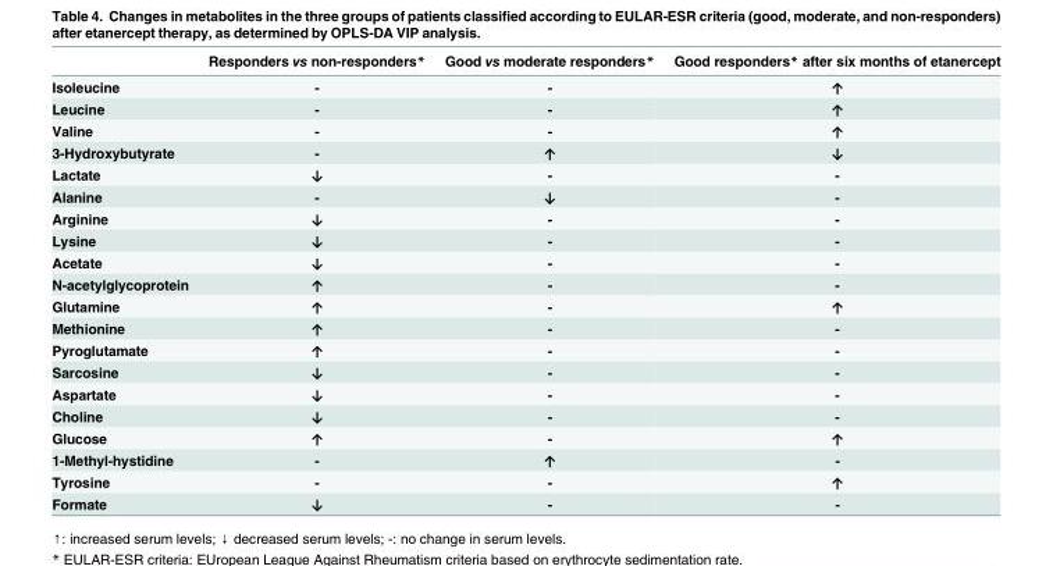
<table><thead><tr><td></td><td>Responders vs non-responders*</td><td>Good vs moderate responders*</td><td>Good responders* after six months of etanercept</td></tr></thead><tbody><tr><td>Isoleucine</td><td>-</td><td>-</td><td>↑</td></tr><tr><td>Leucine</td><td>-</td><td>-</td><td>↑</td></tr><tr><td>Valine</td><td>-</td><td>-</td><td>↑</td></tr><tr><td>3-Hydroxybutyrate</td><td>-</td><td>↑</td><td>↓</td></tr><tr><td>Lactate</td><td>↓</td><td>-</td><td>-</td></tr><tr><td>Alanine</td><td>-</td><td>↓</td><td>-</td></tr><tr><td>Arginine</td><td>↓</td><td>-</td><td>-</td></tr><tr><td>Lysine</td><td>↓</td><td>-</td><td>-</td></tr><tr><td>Acetate</td><td>↓</td><td>-</td><td>-</td></tr><tr><td>N-acetylglycoprotein</td><td>↑</td><td>-</td><td>-</td></tr><tr><td>Glutamine</td><td>↑</td><td>-</td><td>↑</td></tr><tr><td>Methionine</td><td>↑</td><td>-</td><td>-</td></tr><tr><td>Pyroglutamate</td><td>↑</td><td>-</td><td>-</td></tr><tr><td>Sarcosine</td><td>↓</td><td>-</td><td>-</td></tr><tr><td>Aspartate</td><td>↓</td><td>-</td><td>-</td></tr><tr><td>Choline</td><td>↓</td><td>-</td><td>-</td></tr><tr><td>Glucose</td><td>↑</td><td>-</td><td>↑</td></tr><tr><td>1-Methyl-hystidine</td><td>-</td><td>↑</td><td>-</td></tr><tr><td>Tyrosine</td><td>-</td><td>-</td><td>↑</td></tr><tr><td>Formate</td><td>↓</td><td>-</td><td>-</td></tr></tbody></table>